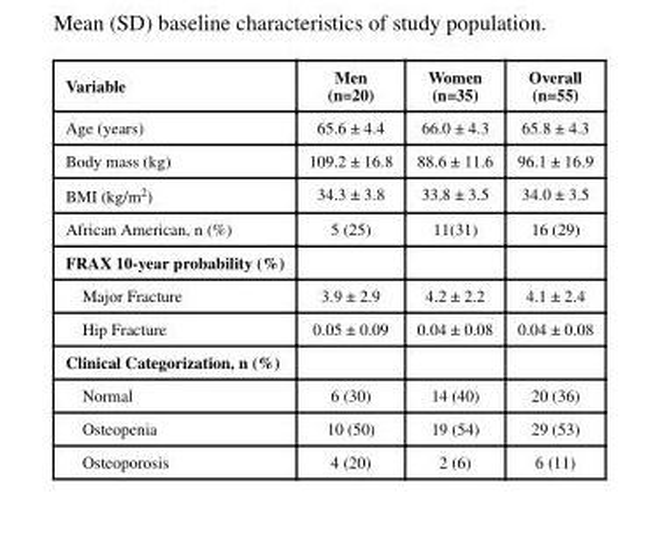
<table><thead><tr><td>Variable</td><td>Men (n=20)</td><td>Women (n=35)</td><td>Overall (n=55)</td></tr></thead><tbody><tr><td>Age (years)</td><td>65.6 ± 4.4</td><td>66.0 ± 4.3</td><td>65.8 ± 4.3</td></tr><tr><td>Body mass (kg)</td><td>109.2 ± 16.8</td><td>88.6 ± 11.6</td><td>96.1 ± 16.9</td></tr><tr><td>BMI (kg/m<sup>2</sup>)</td><td>34.3 ± 3.8</td><td>33.8 ± 3.5</td><td>34.0 ± 3.5</td></tr><tr><td>African American, n (%)</td><td>5 (25)</td><td>11(31)</td><td>16 (29)</td></tr><tr><td colspan="4">FRAX 10-year probability (%)</td></tr><tr><td>Major Fracture</td><td>3.9 ± 2.9</td><td>4.2 ± 2.2</td><td>4.1 ± 2.4</td></tr><tr><td>Hip Fracture</td><td>0.05 ± 0.09</td><td>0.04 ± 0.08</td><td>0.04 ± 0.08</td></tr><tr><td colspan="4">Clinical Categorization, n (%)</td></tr><tr><td>Normal</td><td>6 (30)</td><td>14 (40)</td><td>20 (36)</td></tr><tr><td>Osteopenia</td><td>10 (50)</td><td>19 (54)</td><td>29 (53)</td></tr><tr><td>Osteoporosis</td><td>4 (20)</td><td>2 (6)</td><td>6 (11)</td></tr></tbody></table>